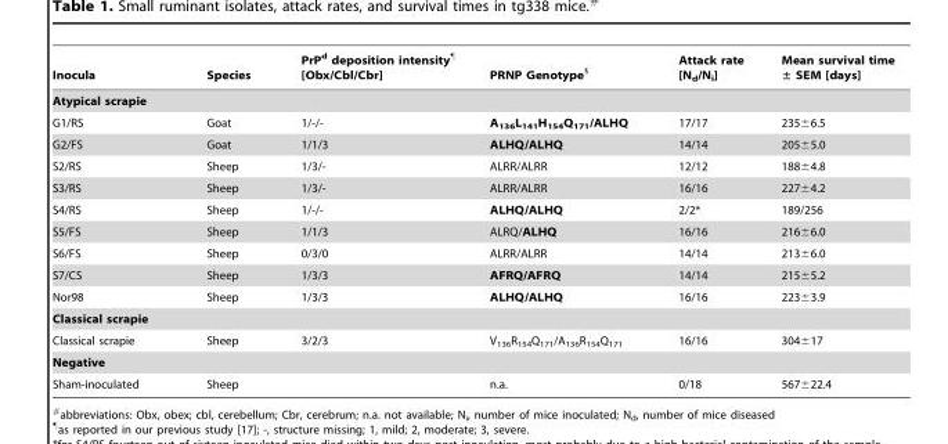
<table><thead><tr><td>Inocula</td><td>Species</td><td>PrP<sup>d</sup> deposition intensity¶ [Obx/Cbl/Cbr]</td><td>PRNP Genotype§</td><td>Attack rate [N<sub>d</sub>/N<sub>i</sub>]</td><td>Mean survival time ± SEM [days]</td></tr></thead><tbody><tr><td colspan="6">Atypical scrapie</td></tr><tr><td>G1/RS</td><td>Goat</td><td>1/-/-</td><td>A<sub>136</sub>L<sub>141</sub>H<sub>154</sub>Q<sub>171</sub>/ALHQ</td><td>17/17</td><td>235±6.5</td></tr><tr><td>G2/FS</td><td>Goat</td><td>1/1/3</td><td>ALHQ/ALHQ</td><td>14/14</td><td>205±5.0</td></tr><tr><td>S2/RS</td><td>Sheep</td><td>1/3/-</td><td>ALRR/ALRR</td><td>12/12</td><td>188±4.8</td></tr><tr><td>S3/RS</td><td>Sheep</td><td>1/3/-</td><td>ALRR/ALRR</td><td>16/16</td><td>227±4.2</td></tr><tr><td>S4/RS</td><td>Sheep</td><td>1/-/-</td><td>ALHQ/ALHQ</td><td>2/2*</td><td>189/256</td></tr><tr><td>S5/FS</td><td>Sheep</td><td>1/1/3</td><td>ALRQ/ALHQ</td><td>16/16</td><td>216±6.0</td></tr><tr><td>S6/FS</td><td>Sheep</td><td>0/3/0</td><td>ALRR/ALRR</td><td>14/14</td><td>213±6.0</td></tr><tr><td>S7/CS</td><td>Sheep</td><td>1/3/3</td><td>AFRQ/AFRQ</td><td>14/14</td><td>215±5.2</td></tr><tr><td>Nor98</td><td>Sheep</td><td>1/3/3</td><td>ALHQ/ALHQ</td><td>16/16</td><td>223±3.9</td></tr><tr><td colspan="6">Classical scrapie</td></tr><tr><td>Classical scrapie</td><td>Sheep</td><td>3/2/3</td><td>V<sub>136</sub>R<sub>154</sub>Q<sub>171</sub>/A<sub>136</sub>R<sub>154</sub>Q<sub>171</sub></td><td>16/16</td><td>304±17</td></tr><tr><td colspan="6">Negative</td></tr><tr><td>Sham-inoculated</td><td>Sheep</td><td></td><td>n.a.</td><td>0/18</td><td>567±22.4</td></tr></tbody></table>